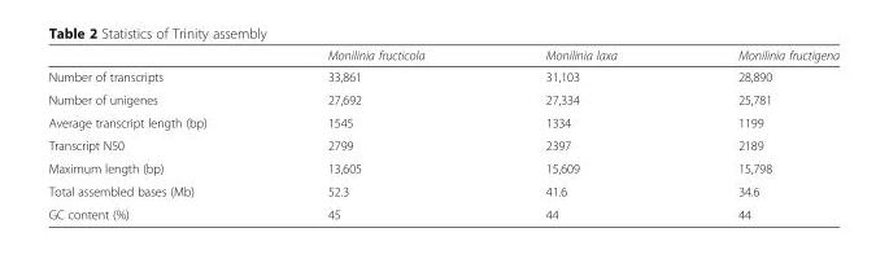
<table><thead><tr><td></td><td>Monilinia fructicola</td><td>Monilinia laxa</td><td>Monilinia fructigena</td></tr></thead><tbody><tr><td>Number of transcripts</td><td>33,861</td><td>31,103</td><td>28,890</td></tr><tr><td>Number of unigenes</td><td>27,692</td><td>27,334</td><td>25,781</td></tr><tr><td>Average transcript length (bp)</td><td>1545</td><td>1334</td><td>1199</td></tr><tr><td>Transcript N50</td><td>2799</td><td>2397</td><td>2189</td></tr><tr><td>Maximum length (bp)</td><td>13,605</td><td>15,609</td><td>15,798</td></tr><tr><td>Total assembled bases (Mb)</td><td>52.3</td><td>41.6</td><td>34.6</td></tr><tr><td>GC content (%)</td><td>45</td><td>44</td><td>44</td></tr></tbody></table>